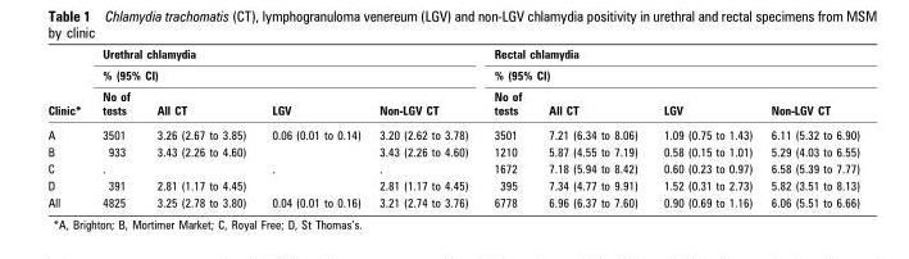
<table><thead><tr><td rowspan="3">Clinic*</td><td rowspan="2" colspan="4">Urethral chlamydia % (95% CI)</td><td rowspan="2" colspan="4">Rectal chlamydia % (95% CI)</td></tr><tr></tr><tr><td>No of tests</td><td>All CT</td><td>LGV</td><td>Non-LGV CT</td><td>No of tests</td><td>All CT</td><td>LGV</td><td>Non-LGV CT</td></tr></thead><tbody><tr><td>A</td><td>3501</td><td>3.26 (2.67 to 3.85)</td><td>0.06 (0.01 to 0.14)</td><td>3.20 (2.62 to 3.78)</td><td>3501</td><td>7.21 (6.34 to 8.06)</td><td>1.09 (0.75 to 1.43)</td><td>6.11 (5.32 to 6.90)</td></tr><tr><td>B</td><td>933</td><td>3.43 (2.26 to 4.60)</td><td></td><td>3.43 (2.26 to 4.60)</td><td>1210</td><td>5.87 (4.55 to 7.19)</td><td>0.58 (0.15 to 1.01)</td><td>5.29 (4.03 to 6.55)</td></tr><tr><td>C</td><td>.</td><td></td><td>.</td><td>.</td><td>1672</td><td>7.18 (5.94 to 8.42)</td><td>0.60 (0.23 to 0.97)</td><td>6.58 (5.39 to 7.77)</td></tr><tr><td>D</td><td>391</td><td>2.81 (1.17 to 4.45)</td><td></td><td>2.81 (1.17 to 4.45)</td><td>395</td><td>7.34 (4.77 to 9.91)</td><td>1.52 (0.31 to 2.73)</td><td>5.82 (3.51 to 8.13)</td></tr><tr><td>All</td><td>4825</td><td>3.25 (2.78 to 3.80)</td><td>0.04 (0.01 to 0.16)</td><td>3.21 (2.74 to 3.76)</td><td>6778</td><td>6.96 (6.37 to 7.60)</td><td>0.90 (0.69 to 1.16)</td><td>6.06 (5.51 to 6.66)</td></tr></tbody></table>